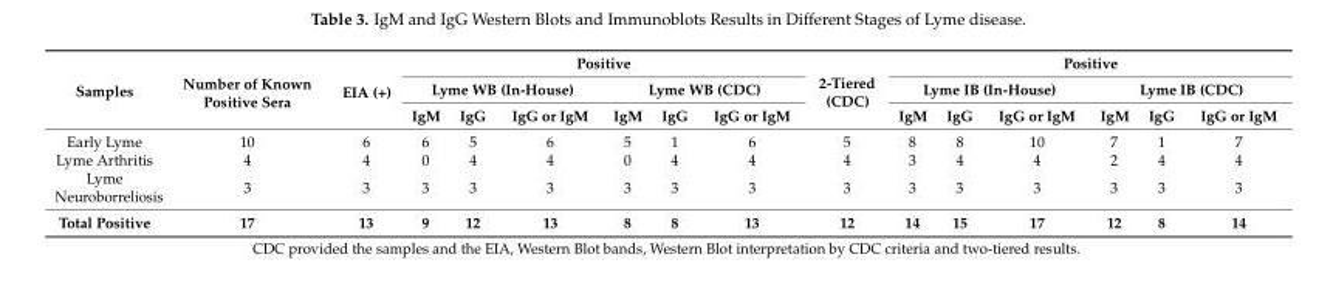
<table><thead><tr><td rowspan="3">Samples</td><td rowspan="3">Number of Known Positive Sera</td><td rowspan="3">EIA (+)</td><td colspan="6">Positive</td><td rowspan="3">2-Tiered (CDC)</td><td colspan="6">Positive</td></tr><tr><td colspan="3">Lyme WB (In-House)</td><td colspan="3">Lyme WB (CDC)</td><td colspan="3">Lyme IB (In-House)</td><td colspan="3">Lyme IB (CDC)</td></tr><tr><td>IgM</td><td>IgG</td><td>IgG or IgM</td><td>IgM</td><td>IgG</td><td>IgG or IgM</td><td>IgM</td><td>IgG</td><td>IgG or IgM</td><td>IgM</td><td>IgG</td><td>IgG or IgM</td></tr></thead><tbody><tr><td>Early Lyme</td><td>10</td><td>6</td><td>6</td><td>5</td><td>6</td><td>5</td><td>1</td><td>6</td><td>5</td><td>8</td><td>8</td><td>10</td><td>7</td><td>1</td><td>7</td></tr><tr><td>Lyme Arthritis</td><td>4</td><td>4</td><td>0</td><td>4</td><td>4</td><td>0</td><td>4</td><td>4</td><td>4</td><td>3</td><td>4</td><td>4</td><td>2</td><td>4</td><td>4</td></tr><tr><td>Lyme Neuroborreliosis</td><td>3</td><td>3</td><td>3</td><td>3</td><td>3</td><td>3</td><td>3</td><td>3</td><td>3</td><td>3</td><td>3</td><td>3</td><td>3</td><td>3</td><td>3</td></tr><tr><td>Total Positive</td><td>17</td><td>13</td><td>9</td><td>12</td><td>13</td><td>8</td><td>8</td><td>13</td><td>12</td><td>14</td><td>15</td><td>17</td><td>12</td><td>8</td><td>14</td></tr></tbody></table>